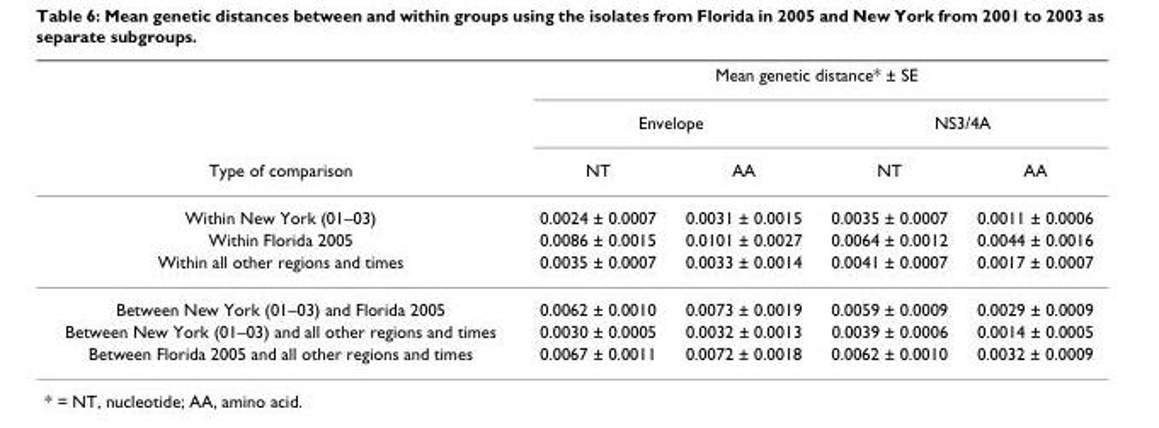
<table><thead><tr><td rowspan="3">Type of comparison</td><td colspan="4">Mean genetic distance* ± SE</td></tr><tr><td colspan="2">Envelope</td><td colspan="2">NS3/4A</td></tr><tr><td>NT</td><td>AA</td><td>NT</td><td>AA</td></tr></thead><tbody><tr><td>Within New York (01–03)</td><td>0.0024 ± 0.0007</td><td>0.0031 ± 0.0015</td><td>0.0035 ± 0.0007</td><td>0.0011 ± 0.0006</td></tr><tr><td>Within Florida 2005</td><td>0.0086 ± 0.0015</td><td>0.0101 ± 0.0027</td><td>0.0064 ± 0.0012</td><td>0.0044 ± 0.0016</td></tr><tr><td>Within all other regions and times</td><td>0.0035 ± 0.0007</td><td>0.0033 ± 0.0014</td><td>0.0041 ± 0.0007</td><td>0.0017 ± 0.0007</td></tr><tr><td>Between New York (01–03) and Florida 2005</td><td>0.0062 ± 0.0010</td><td>0.0073 ± 0.0019</td><td>0.0059 ± 0.0009</td><td>0.0029 ± 0.0009</td></tr><tr><td>Between New York (01–03) and all other regions and times</td><td>0.0030 ± 0.0005</td><td>0.0032 ± 0.0013</td><td>0.0039 ± 0.0006</td><td>0.0014 ± 0.0005</td></tr><tr><td>Between Florida 2005 and all other regions and times</td><td>0.0067 ± 0.0011</td><td>0.0072 ± 0.0018</td><td>0.0062 ± 0.0010</td><td>0.0032 ± 0.0009</td></tr></tbody></table>